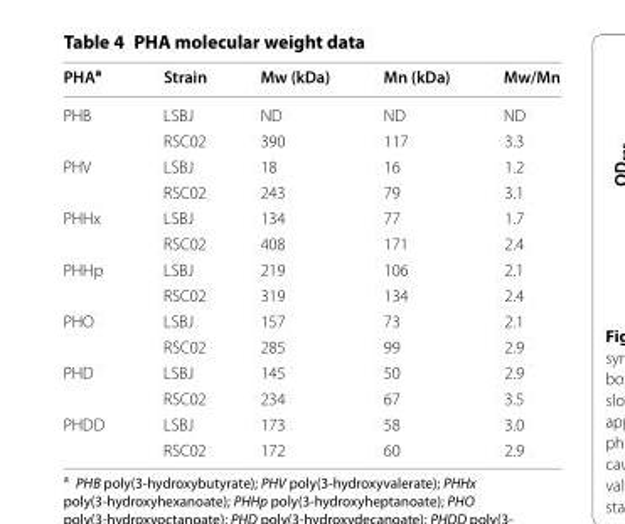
<table><thead><tr><td>PHA<sup>a</sup></td><td>Strain</td><td>Mw (kDa)</td><td>Mn (kDa)</td><td>Mw/Mn</td></tr></thead><tbody><tr><td rowspan="2">PHB</td><td>LSBJ</td><td>ND</td><td>ND</td><td>ND</td></tr><tr><td>RSC02</td><td>390</td><td>117</td><td>3.3</td></tr><tr><td rowspan="2">PHV</td><td>LSBJ</td><td>18</td><td>16</td><td>1.2</td></tr><tr><td>RSC02</td><td>243</td><td>79</td><td>3.1</td></tr><tr><td rowspan="2">PHHx</td><td>LSBJ</td><td>134</td><td>77</td><td>1.7</td></tr><tr><td>RSC02</td><td>408</td><td>171</td><td>2.4</td></tr><tr><td rowspan="2">PHHp</td><td>LSBJ</td><td>219</td><td>106</td><td>2.1</td></tr><tr><td>RSC02</td><td>319</td><td>134</td><td>2.4</td></tr><tr><td rowspan="2">PHO</td><td>LSBJ</td><td>157</td><td>73</td><td>2.1</td></tr><tr><td>RSC02</td><td>285</td><td>99</td><td>2.9</td></tr><tr><td rowspan="2">PHD</td><td>LSBJ</td><td>145</td><td>50</td><td>2.9</td></tr><tr><td>RSC02</td><td>234</td><td>67</td><td>3.5</td></tr><tr><td rowspan="2">PHDD</td><td>LSBJ</td><td>173</td><td>58</td><td>3.0</td></tr><tr><td>RSC02</td><td>172</td><td>60</td><td>2.9</td></tr></tbody></table>